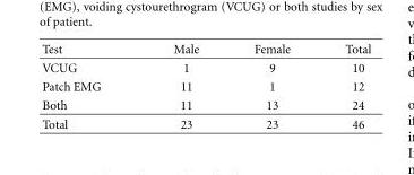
<table><thead><tr><td>Test</td><td>Male</td><td>Female</td><td>Total</td></tr></thead><tbody><tr><td>VCUG</td><td>1</td><td>9</td><td>10</td></tr><tr><td>Patch EMG</td><td>11</td><td>1</td><td>12</td></tr><tr><td>Both</td><td>11</td><td>13</td><td>24</td></tr><tr><td>Total</td><td>23</td><td>23</td><td>46</td></tr></tbody></table>